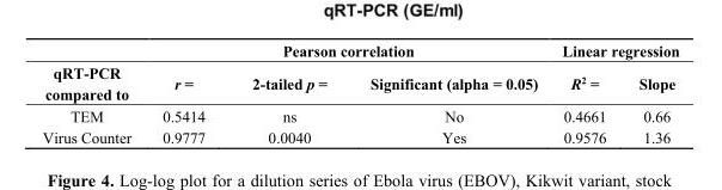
<table><thead><tr><td rowspan="2">qRT-PCR compared to</td><td colspan="3">Pearson correlation</td><td colspan="2">Linear regression</td></tr><tr><td>r =</td><td>2-tailed p =</td><td>Significant (alpha = 0.05)</td><td>R<sup>2</sup> =</td><td>Slope</td></tr></thead><tbody><tr><td>TEM</td><td>0.5414</td><td>ns</td><td>No</td><td>0.4661</td><td>0.66</td></tr><tr><td>Virus Counter</td><td>0.9777</td><td>0.0040</td><td>Yes</td><td>0.9576</td><td>1.36</td></tr></tbody></table>